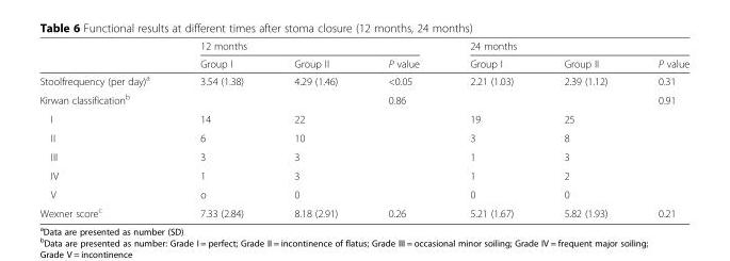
<table><thead><tr><td rowspan="2"></td><td colspan="3">12 months</td><td colspan="3">24 months</td></tr><tr><td>Group I</td><td>Group II</td><td>P value</td><td>Group I</td><td>Group II</td><td>P value</td></tr></thead><tbody><tr><td>Stoolfrequency (per day)<sup>a</sup></td><td>3.54 (1.38)</td><td>4.29 (1.46)</td><td>&lt;0.05</td><td>2.21 (1.03)</td><td>2.39 (1.12)</td><td>0.31</td></tr><tr><td>Kirwan classification<sup>b</sup></td><td></td><td></td><td>0.86</td><td></td><td></td><td>0.91</td></tr><tr><td>I</td><td>14</td><td>22</td><td></td><td>19</td><td>25</td><td></td></tr><tr><td>II</td><td>6</td><td>10</td><td></td><td>3</td><td>8</td><td></td></tr><tr><td>III</td><td>3</td><td>3</td><td></td><td>1</td><td>3</td><td></td></tr><tr><td>IV</td><td>1</td><td>3</td><td></td><td>1</td><td>2</td><td></td></tr><tr><td>V</td><td>o</td><td>0</td><td></td><td>0</td><td>0</td><td></td></tr><tr><td>Wexner score<sup>c</sup></td><td>7.33 (2.84)</td><td>8.18 (2.91)</td><td>0.26</td><td>5.21 (1.67)</td><td>5.82 (1.93)</td><td>0.21</td></tr></tbody></table>